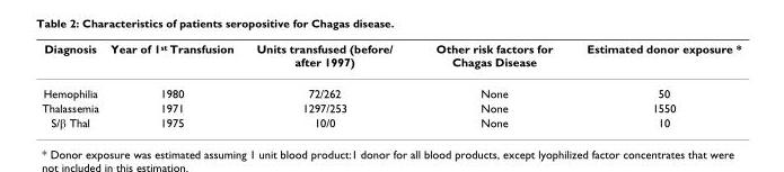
<table><thead><tr><td>Diagnosis</td><td>Year of 1<sup>st</sup> Transfusion</td><td>Units transfused (before/ after 1997)</td><td>Other risk factors for Chagas Disease</td><td>Estimated donor exposure *</td></tr></thead><tbody><tr><td>Hemophilia</td><td>1980</td><td>72/262</td><td>None</td><td>50</td></tr><tr><td>Thalassemia</td><td>1971</td><td>1297/253</td><td>None</td><td>1550</td></tr><tr><td>S/β Thal</td><td>1975</td><td>10/0</td><td>None</td><td>10</td></tr></tbody></table>